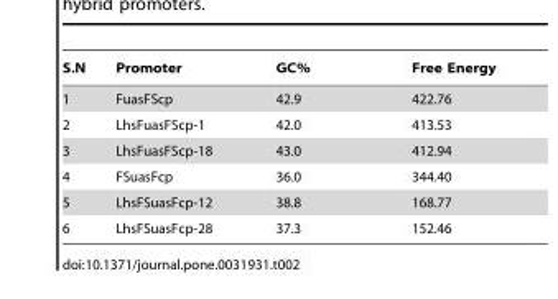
<table><thead><tr><td>S.N</td><td>Promoter</td><td>GC%</td><td>Free Energy</td></tr></thead><tbody><tr><td>1</td><td>FuasFScp</td><td>42.9</td><td>422.76</td></tr><tr><td>2</td><td>LhsFuasFScp-1</td><td>42.0</td><td>413.53</td></tr><tr><td>3</td><td>LhsFuasFScp-18</td><td>43.0</td><td>412.94</td></tr><tr><td>4</td><td>FSuasFcp</td><td>36.0</td><td>344.40</td></tr><tr><td>5</td><td>LhsFSuasFcp-12</td><td>38.8</td><td>168.77</td></tr><tr><td>6</td><td>LhsFSuasFcp-28</td><td>37.3</td><td>152.46</td></tr></tbody></table>